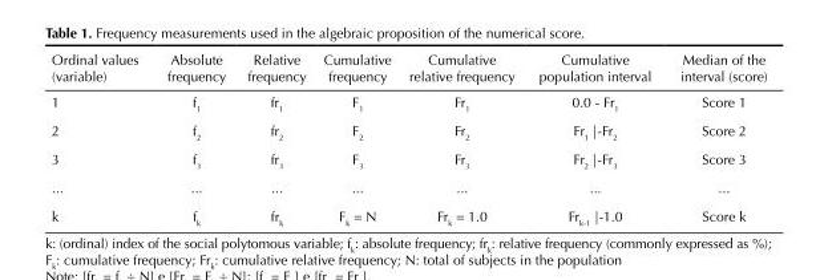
<table><thead><tr><td>Ordinal values (variable)</td><td>Absolute frequency</td><td>Relative frequency</td><td>Cumulative frequency</td><td>Cumulative relative frequency</td><td>Cumulative population interval</td><td>Median of the interval (score)</td></tr></thead><tbody><tr><td>1</td><td>f<sub>1</sub></td><td>fr<sub>1</sub></td><td>F<sub>1</sub></td><td>Fr<sub>1</sub></td><td>0.0 - Fr<sub>1</sub></td><td>Score 1</td></tr><tr><td>2</td><td>f<sub>2</sub></td><td>fr<sub>2</sub></td><td>F<sub>2</sub></td><td>Fr<sub>2</sub></td><td>Fr<sub>1</sub> |-Fr<sub>2</sub></td><td>Score 2</td></tr><tr><td>3</td><td>f<sub>3</sub></td><td>fr<sub>3</sub></td><td>F<sub>3</sub></td><td>Fr<sub>3</sub></td><td>Fr<sub>2</sub> |-Fr<sub>3</sub></td><td>Score 3</td></tr><tr><td>...</td><td>...</td><td>...</td><td>...</td><td>...</td><td>...</td><td>...</td></tr><tr><td>k</td><td>f<sub>k</sub></td><td>fr<sub>k</sub></td><td>F<sub>k</sub> = N</td><td>Fr<sub>k</sub> = 1.0</td><td>Fr<sub>k-1</sub> |-1.0</td><td>Score k</td></tr></tbody></table>